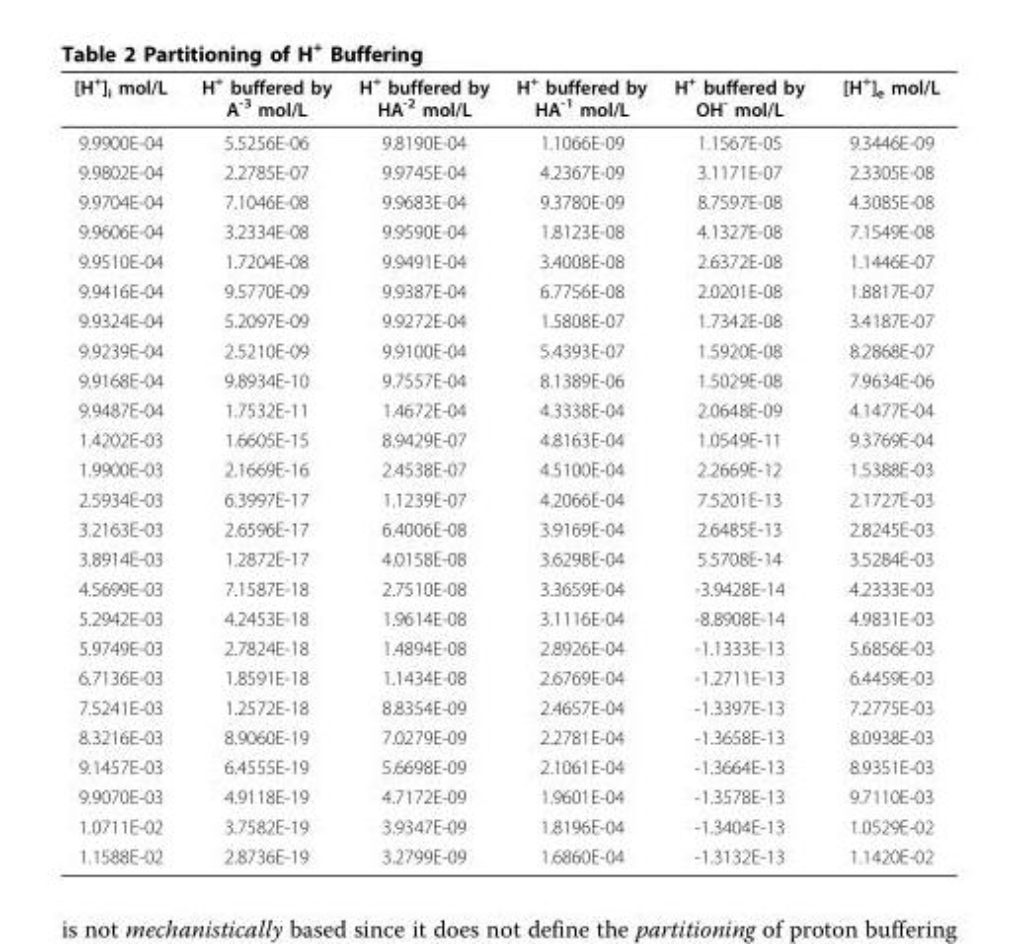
<table><thead><tr><td>[H<sup>+</sup>]<sub>i</sub> mol/L</td><td>H<sup>+</sup> buffered by A<sup>-3</sup> mol/L</td><td>H<sup>+</sup> buffered by HA<sup>-2</sup> mol/L</td><td>H<sup>+</sup> buffered by HA<sup>-1</sup> mol/L</td><td>H<sup>+</sup> buffered by OH<sup>-</sup> mol/L</td><td>[H<sup>+</sup>]<sub>e</sub> mol/L</td></tr></thead><tbody><tr><td>9.9900E-04</td><td>5.5256E-06</td><td>9.8190E-04</td><td>1.1066E-09</td><td>1.1567E-05</td><td>9.3446E-09</td></tr><tr><td>9.9802E-04</td><td>2.2785E-07</td><td>9.9745E-04</td><td>4.2367E-09</td><td>3.1171E-07</td><td>2.3305E-08</td></tr><tr><td>9.9704E-04</td><td>7.1046E-08</td><td>9.9683E-04</td><td>9.3780E-09</td><td>8.7597E-08</td><td>4.3085E-08</td></tr><tr><td>9.9606E-04</td><td>3.2334E-08</td><td>9.9590E-04</td><td>1.8123E-08</td><td>4.1327E-08</td><td>7.1549E-08</td></tr><tr><td>9.9510E-04</td><td>1.7204E-08</td><td>9.9491E-04</td><td>3.4008E-08</td><td>2.6372E-08</td><td>1.1446E-07</td></tr><tr><td>9.9416E-04</td><td>9.5770E-09</td><td>9.9387E-04</td><td>6.7756E-08</td><td>2.0201E-08</td><td>1.8817E-07</td></tr><tr><td>9.9324E-04</td><td>5.2097E-09</td><td>9.9272E-04</td><td>1.5808E-07</td><td>1.7342E-08</td><td>3.4187E-07</td></tr><tr><td>9.9239E-04</td><td>2.5210E-09</td><td>9.9100E-04</td><td>5.4393E-07</td><td>1.5920E-08</td><td>8.2868E-07</td></tr><tr><td>9.9168E-04</td><td>9.8934E-10</td><td>9.7557E-04</td><td>8.1389E-06</td><td>1.5029E-08</td><td>7.9634E-06</td></tr><tr><td>9.9487E-04</td><td>1.7532E-11</td><td>1.4672E-04</td><td>4.3338E-04</td><td>2.0648E-09</td><td>4.1477E-04</td></tr><tr><td>1.4202E-03</td><td>1.6605E-15</td><td>8.9429E-07</td><td>4.8163E-04</td><td>1.0549E-11</td><td>9.3769E-04</td></tr><tr><td>1.9900E-03</td><td>2.1669E-16</td><td>2.4538E-07</td><td>4.5100E-04</td><td>2.2669E-12</td><td>1.5388E-03</td></tr><tr><td>2.5934E-03</td><td>6.3997E-17</td><td>1.1239E-07</td><td>4.2066E-04</td><td>7.5201E-13</td><td>2.1727E-03</td></tr><tr><td>3.2163E-03</td><td>2.6596E-17</td><td>6.4006E-08</td><td>3.9169E-04</td><td>2.6485E-13</td><td>2.8245E-03</td></tr><tr><td>3.8914E-03</td><td>1.2872E-17</td><td>4.0158E-08</td><td>3.6298E-04</td><td>5.5708E-14</td><td>3.5284E-03</td></tr><tr><td>4.5699E-03</td><td>7.1587E-18</td><td>2.7510E-08</td><td>3.3659E-04</td><td>-3.9428E-14</td><td>4.2333E-03</td></tr><tr><td>5.2942E-03</td><td>4.2453E-18</td><td>1.9614E-08</td><td>3.1116E-04</td><td>-8.8908E-14</td><td>4.9831E-03</td></tr><tr><td>5.9749E-03</td><td>2.7824E-18</td><td>1.4894E-08</td><td>2.8926E-04</td><td>-1.1333E-13</td><td>5.6856E-03</td></tr><tr><td>6.7136E-03</td><td>1.8591E-18</td><td>1.1434E-08</td><td>2.6769E-04</td><td>-1.2711E-13</td><td>6.4459E-03</td></tr><tr><td>7.5241E-03</td><td>1.2572E-18</td><td>8.8354E-09</td><td>2.4657E-04</td><td>-1.3397E-13</td><td>7.2775E-03</td></tr><tr><td>8.3216E-03</td><td>8.9060E-19</td><td>7.0279E-09</td><td>2.2781E-04</td><td>-1.3658E-13</td><td>8.0938E-03</td></tr><tr><td>9.1457E-03</td><td>6.4555E-19</td><td>5.6698E-09</td><td>2.1061E-04</td><td>-1.3664E-13</td><td>8.9351E-03</td></tr><tr><td>9.9070E-03</td><td>4.9118E-19</td><td>4.7172E-09</td><td>1.9601E-04</td><td>-1.3578E-13</td><td>9.7110E-03</td></tr><tr><td>1.0711E-02</td><td>3.7582E-19</td><td>3.9347E-09</td><td>1.8196E-04</td><td>-1.3404E-13</td><td>1.0529E-02</td></tr><tr><td>1.1588E-02</td><td>2.8736E-19</td><td>3.2799E-09</td><td>1.6860E-04</td><td>-1.3132E-13</td><td>1.1420E-02</td></tr></tbody></table>